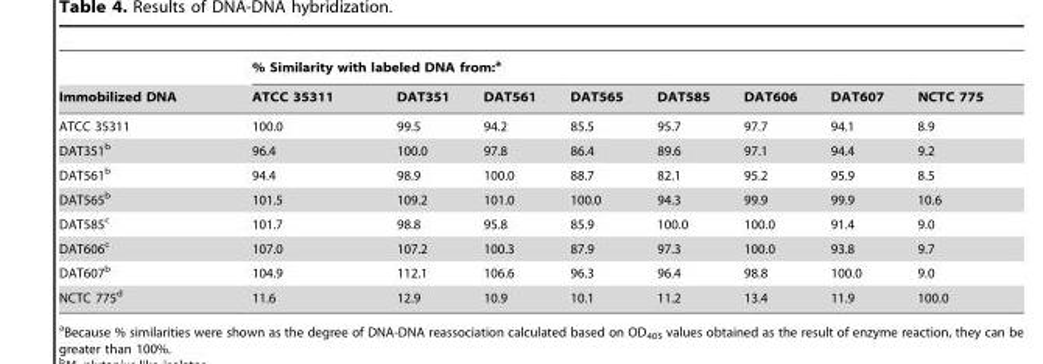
<table><thead><tr><td rowspan="2">Immobilized DNA</td><td colspan="8">% Similarity with labeled DNA from:<sup>a</sup></td></tr><tr><td>ATCC 35311</td><td>DAT351</td><td>DAT561</td><td>DAT565</td><td>DAT585</td><td>DAT606</td><td>DAT607</td><td>NCTC 775</td></tr></thead><tbody><tr><td>ATCC 35311</td><td>100.0</td><td>99.5</td><td>94.2</td><td>85.5</td><td>95.7</td><td>97.7</td><td>94.1</td><td>8.9</td></tr><tr><td>DAT351<sup>b</sup></td><td>96.4</td><td>100.0</td><td>97.8</td><td>86.4</td><td>89.6</td><td>97.1</td><td>94.4</td><td>9.2</td></tr><tr><td>DAT561<sup>b</sup></td><td>94.4</td><td>98.9</td><td>100.0</td><td>88.7</td><td>82.1</td><td>95.2</td><td>95.9</td><td>8.5</td></tr><tr><td>DAT565<sup>b</sup></td><td>101.5</td><td>109.2</td><td>101.0</td><td>100.0</td><td>94.3</td><td>99.9</td><td>99.9</td><td>10.6</td></tr><tr><td>DAT585<sup>c</sup></td><td>101.7</td><td>98.8</td><td>95.8</td><td>85.9</td><td>100.0</td><td>100.0</td><td>91.4</td><td>9.0</td></tr><tr><td>DAT606<sup>c</sup></td><td>107.0</td><td>107.2</td><td>100.3</td><td>87.9</td><td>97.3</td><td>100.0</td><td>93.8</td><td>9.7</td></tr><tr><td>DAT607<sup>b</sup></td><td>104.9</td><td>112.1</td><td>106.6</td><td>96.3</td><td>96.4</td><td>98.8</td><td>100.0</td><td>9.0</td></tr><tr><td>NCTC 775<sup>d</sup></td><td>11.6</td><td>12.9</td><td>10.9</td><td>10.1</td><td>11.2</td><td>13.4</td><td>11.9</td><td>100.0</td></tr></tbody></table>